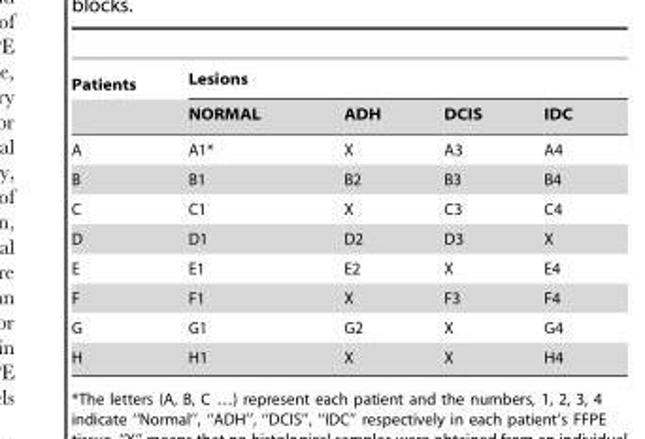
<table><thead><tr><td rowspan="2">Patients</td><td colspan="4">Lesions</td></tr><tr><td>NORMAL</td><td>ADH</td><td>DCIS</td><td>IDC</td></tr></thead><tbody><tr><td>A</td><td>A1*</td><td>X</td><td>A3</td><td>A4</td></tr><tr><td>B</td><td>B1</td><td>B2</td><td>B3</td><td>B4</td></tr><tr><td>C</td><td>C1</td><td>X</td><td>C3</td><td>C4</td></tr><tr><td>D</td><td>D1</td><td>D2</td><td>D3</td><td>X</td></tr><tr><td>E</td><td>E1</td><td>E2</td><td>X</td><td>E4</td></tr><tr><td>F</td><td>F1</td><td>X</td><td>F3</td><td>F4</td></tr><tr><td>G</td><td>G1</td><td>G2</td><td>X</td><td>G4</td></tr><tr><td>H</td><td>H1</td><td>X</td><td>X</td><td>H4</td></tr></tbody></table>